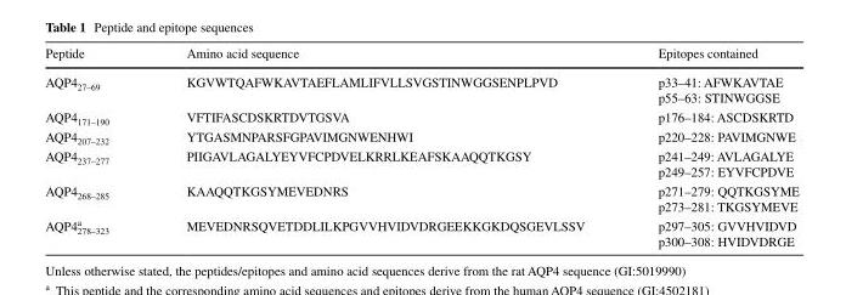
<table><thead><tr><td>Peptide</td><td>Amino acid sequence</td><td>Epitopes contained</td></tr></thead><tbody><tr><td>AQP4<sub>27–69</sub></td><td>KGVWTQAFWKAVTAEFLAMLIFVLLSVGSTINWGGSENPLPVD</td><td>p33–41: AFWKAVTAE p55–63: STINWGGSE</td></tr><tr><td>AQP4<sub>171–190</sub></td><td>VFTIFASCDSKRTDVTGSVA</td><td>p176–184: ASCDSKRTD</td></tr><tr><td>AQP4<sub>207–232</sub></td><td>YTGASMNPARSFGPAVIMGNWENHWI</td><td>p220–228: PAVIMGNWE</td></tr><tr><td>AQP4<sub>237–277</sub></td><td>PIIGAVLAGALYEYVFCPDVELKRRLKEAFSKAAQQTKGSY</td><td>p241–249: AVLAGALYE p249–257: EYVFCPDVE</td></tr><tr><td>AQP4<sub>268–285</sub></td><td>KAAQQTKGSYMEVEDNRS</td><td>p271–279: QQTKGSYME p273–281: TKGSYMEVE</td></tr><tr><td>AQP4a 278–323</td><td>MEVEDNRSQVETDDLILKPGVVHVIDVDRGEEKKGKDQSGEVLSSV</td><td>p297–305: GVVHVIDVD p300–308: HVIDVDRGE</td></tr></tbody></table>